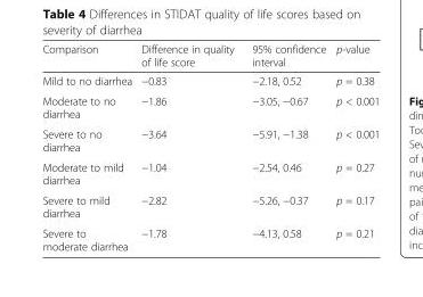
<table><thead><tr><td>Comparison</td><td>Difference in quality of life score</td><td>95% confidence interval</td><td>p-value</td></tr></thead><tbody><tr><td>Mild to no diarrhea</td><td>−0.83</td><td>−2.18, 0.52</td><td>p = 0.38</td></tr><tr><td>Moderate to no diarrhea</td><td>−1.86</td><td>−3.05, −0.67</td><td>p &lt; 0.001</td></tr><tr><td>Severe to no diarrhea</td><td>−3.64</td><td>−5.91, −1.38</td><td>p &lt; 0.001</td></tr><tr><td>Moderate to mild diarrhea</td><td>−1.04</td><td>−2.54, 0.46</td><td>p = 0.27</td></tr><tr><td>Severe to mild diarrhea</td><td>−2.82</td><td>−5.26, −0.37</td><td>p = 0.17</td></tr><tr><td>Severe to moderate diarrhea</td><td>−1.78</td><td>−4.13, 0.58</td><td>p = 0.21</td></tr></tbody></table>